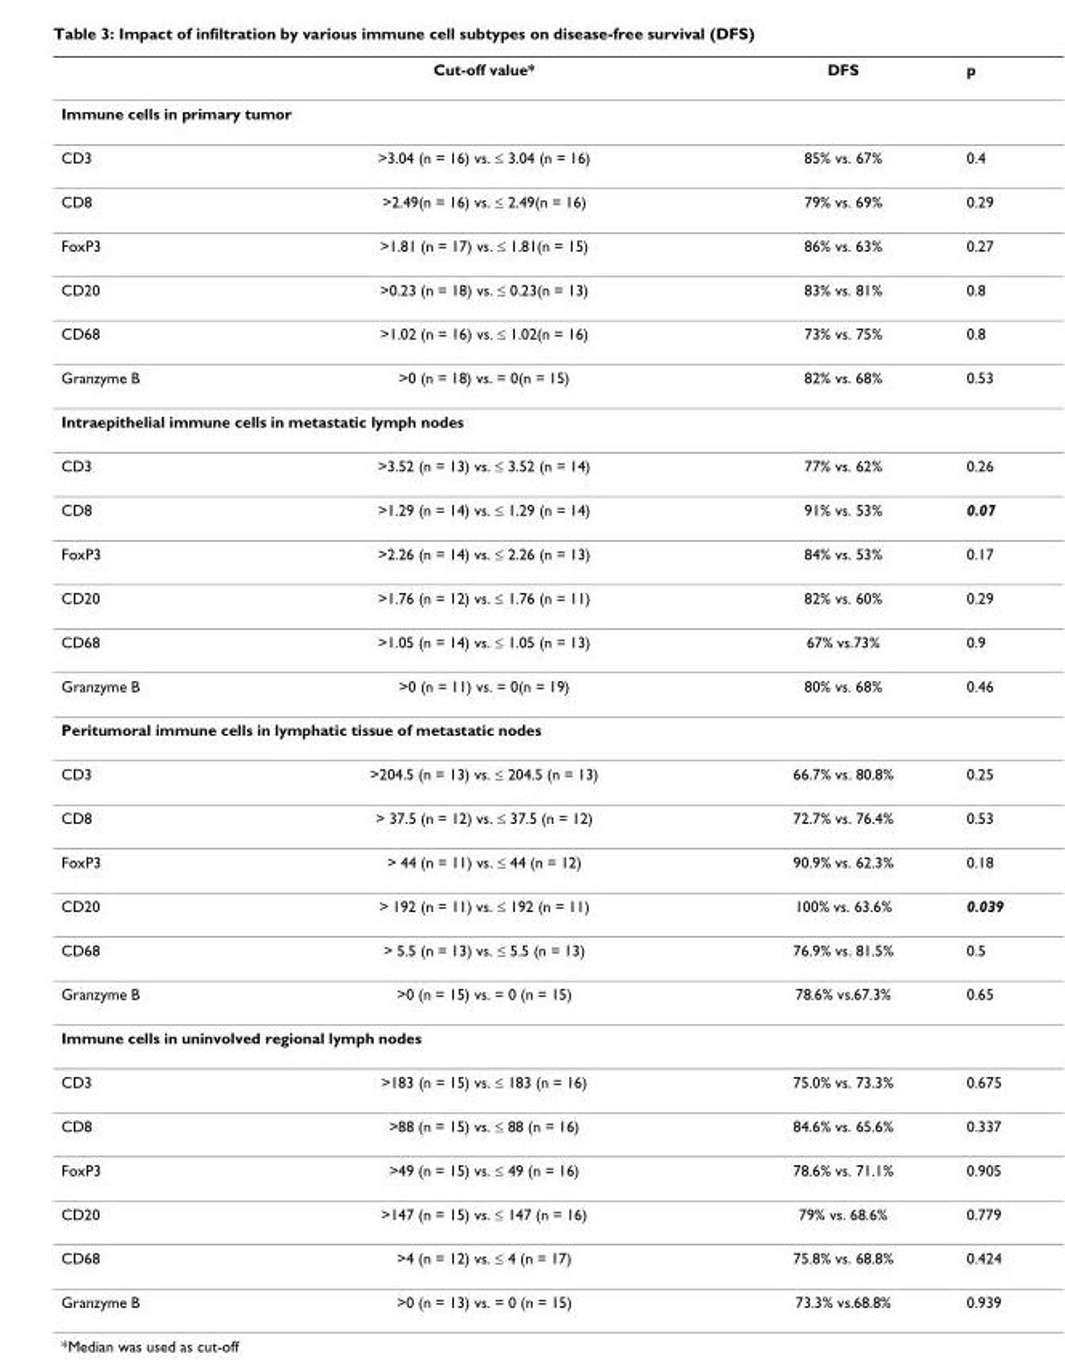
<table><thead><tr><td></td><td>Cut-off value*</td><td>DFS</td><td>p</td></tr></thead><tbody><tr><td colspan="4">Immune cells in primary tumor</td></tr><tr><td>CD3</td><td>&gt;3.04 (n = 16) vs. ≤ 3.04 (n = 16)</td><td>85% vs. 67%</td><td>0.4</td></tr><tr><td>CD8</td><td>&gt;2.49(n = 16) vs. ≤ 2.49(n = 16)</td><td>79% vs. 69%</td><td>0.29</td></tr><tr><td>FoxP3</td><td>&gt;1.81 (n = 17) vs. ≤ 1.81(n = 15)</td><td>86% vs. 63%</td><td>0.27</td></tr><tr><td>CD20</td><td>&gt;0.23 (n = 18) vs. ≤ 0.23(n = 13)</td><td>83% vs. 81%</td><td>0.8</td></tr><tr><td>CD68</td><td>&gt;1.02 (n = 16) vs. ≤ 1.02(n = 16)</td><td>73% vs. 75%</td><td>0.8</td></tr><tr><td>Granzyme B</td><td>&gt;0 (n = 18) vs. = 0(n = 15)</td><td>82% vs. 68%</td><td>0.53</td></tr><tr><td colspan="4">Intraepithelial immune cells in metastatic lymph nodes</td></tr><tr><td>CD3</td><td>&gt;3.52 (n = 13) vs. ≤ 3.52 (n = 14)</td><td>77% vs. 62%</td><td>0.26</td></tr><tr><td>CD8</td><td>&gt;1.29 (n = 14) vs. ≤ 1.29 (n = 14)</td><td>91% vs. 53%</td><td>0.07</td></tr><tr><td>FoxP3</td><td>&gt;2.26 (n = 14) vs. ≤ 2.26 (n = 13)</td><td>84% vs. 53%</td><td>0.17</td></tr><tr><td>CD20</td><td>&gt;1.76 (n = 12) vs. ≤ 1.76 (n = 11)</td><td>82% vs. 60%</td><td>0.29</td></tr><tr><td>CD68</td><td>&gt;1.05 (n = 14) vs. ≤ 1.05 (n = 13)</td><td>67% vs.73%</td><td>0.9</td></tr><tr><td>Granzyme B</td><td>&gt;0 (n = 11) vs. = 0(n = 19)</td><td>80% vs. 68%</td><td>0.46</td></tr><tr><td colspan="4">Peritumoral immune cells in lymphatic tissue of metastatic nodes</td></tr><tr><td>CD3</td><td>&gt;204.5 (n = 13) vs. ≤ 204.5 (n = 13)</td><td>66.7% vs. 80.8%</td><td>0.25</td></tr><tr><td>CD8</td><td>&gt; 37.5 (n = 12) vs. ≤ 37.5 (n = 12)</td><td>72.7% vs. 76.4%</td><td>0.53</td></tr><tr><td>FoxP3</td><td>&gt; 44 (n = 11) vs. ≤ 44 (n = 12)</td><td>90.9% vs. 62.3%</td><td>0.18</td></tr><tr><td>CD20</td><td>&gt; 192 (n = 11) vs. ≤ 192 (n = 11)</td><td>100% vs. 63.6%</td><td>0.039</td></tr><tr><td>CD68</td><td>&gt; 5.5 (n = 13) vs. ≤ 5.5 (n = 13)</td><td>76.9% vs. 81.5%</td><td>0.5</td></tr><tr><td>Granzyme B</td><td>&gt;0 (n = 15) vs. = 0 (n = 15)</td><td>78.6% vs.67.3%</td><td>0.65</td></tr><tr><td colspan="4">Immune cells in uninvolved regional lymph nodes</td></tr><tr><td>CD3</td><td>&gt;183 (n = 15) vs. ≤ 183 (n = 16)</td><td>75.0% vs. 73.3%</td><td>0.675</td></tr><tr><td>CD8</td><td>&gt;88 (n = 15) vs. ≤ 88 (n = 16)</td><td>84.6% vs. 65.6%</td><td>0.337</td></tr><tr><td>FoxP3</td><td>&gt;49 (n = 15) vs. ≤ 49 (n = 16)</td><td>78.6% vs. 71.1%</td><td>0.905</td></tr><tr><td>CD20</td><td>&gt;147 (n = 15) vs. ≤ 147 (n = 16)</td><td>79% vs. 68.6%</td><td>0.779</td></tr><tr><td>CD68</td><td>&gt;4 (n = 12) vs. ≤ 4 (n = 17)</td><td>75.8% vs. 68.8%</td><td>0.424</td></tr><tr><td>Granzyme B</td><td>&gt;0 (n = 13) vs. = 0 (n = 15)</td><td>73.3% vs.68.8%</td><td>0.939</td></tr></tbody></table>